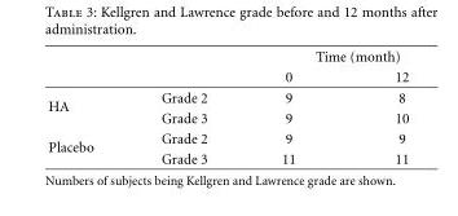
<table><thead><tr><td rowspan="2"></td><td rowspan="2"></td><td colspan="2">Time (month)</td></tr><tr><td>0</td><td>12</td></tr></thead><tbody><tr><td rowspan="2">HA</td><td>Grade 2</td><td>9</td><td>8</td></tr><tr><td>Grade 3</td><td>9</td><td>10</td></tr><tr><td rowspan="2">Placebo</td><td>Grade 2</td><td>9</td><td>9</td></tr><tr><td>Grade 3</td><td>11</td><td>11</td></tr></tbody></table>